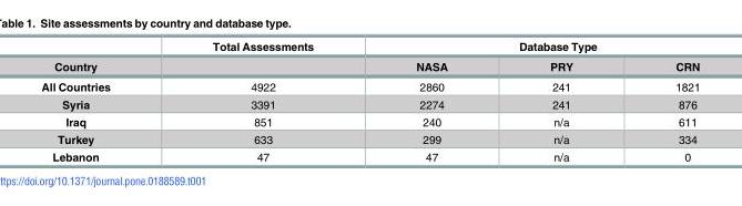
<table><thead><tr><td rowspan="2">Country</td><td rowspan="2">Total Assessments</td><td colspan="3">Database Type</td></tr><tr><td>NASA</td><td>PRY</td><td>CRN</td></tr></thead><tbody><tr><td>All Countries</td><td>4922</td><td>2860</td><td>241</td><td>1821</td></tr><tr><td>Syria</td><td>3391</td><td>2274</td><td>241</td><td>876</td></tr><tr><td>Iraq</td><td>851</td><td>240</td><td>n/a</td><td>611</td></tr><tr><td>Turkey</td><td>633</td><td>299</td><td>n/a</td><td>334</td></tr><tr><td>Lebanon</td><td>47</td><td>47</td><td>n/a</td><td>0</td></tr></tbody></table>